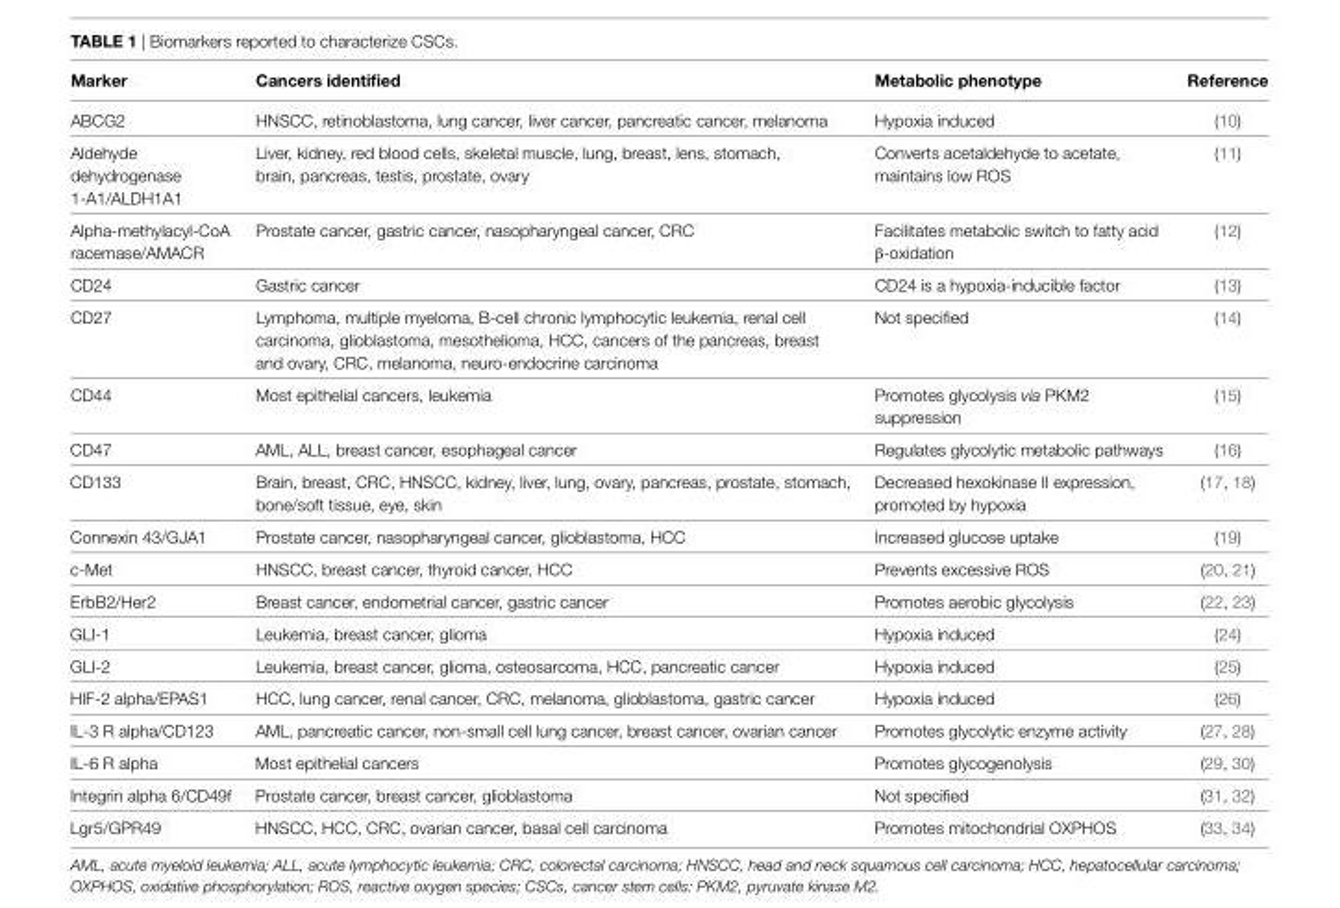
<table><thead><tr><td>Marker</td><td>Cancers identified</td><td>Metabolic phenotype</td><td>Reference</td></tr></thead><tbody><tr><td>ABCG2</td><td>HNSCC, retinoblastoma, lung cancer, liver cancer, pancreatic cancer, melanoma</td><td>Hypoxia induced</td><td>(10)</td></tr><tr><td>Aldehyde dehydrogenase 1-A1/ALDH1A1</td><td>Liver, kidney, red blood cells, skeletal muscle, lung, breast, lens, stomach, brain, pancreas, testis, prostate, ovary</td><td>Converts acetaldehyde to acetate, maintains low ROS</td><td>(11)</td></tr><tr><td>Alpha-methylacyl-CoA racemase/AMACR</td><td>Prostate cancer, gastric cancer, nasopharyngeal cancer, CRC</td><td>Facilitates metabolic switch to fatty acid β-oxidation</td><td>(12)</td></tr><tr><td>CD24</td><td>Gastric cancer</td><td>CD24 is a hypoxia-inducible factor</td><td>(13)</td></tr><tr><td>CD27</td><td>Lymphoma, multiple myeloma, B-cell chronic lymphocytic leukemia, renal cell carcinoma, glioblastoma, mesothelioma, HCC, cancers of the pancreas, breast and ovary, CRC, melanoma, neuro-endocrine carcinoma</td><td>Not specified</td><td>(14)</td></tr><tr><td>CD44</td><td>Most epithelial cancers, leukemia</td><td>Promotes glycolysis via PKM2 suppression</td><td>(15)</td></tr><tr><td>CD47</td><td>AML, ALL, breast cancer, esophageal cancer</td><td>Regulates glycolytic metabolic pathways</td><td>(16)</td></tr><tr><td>CD133</td><td>Brain, breast, CRC, HNSCC, kidney, liver, lung, ovary, pancreas, prostate, stomach, bone/soft tissue, eye, skin</td><td>Decreased hexokinase II expression, promoted by hypoxia</td><td>(17, 18)</td></tr><tr><td>Connexin 43/GJA1</td><td>Prostate cancer, nasopharyngeal cancer, glioblastoma, HCC</td><td>Increased glucose uptake</td><td>(19)</td></tr><tr><td>c-Met</td><td>HNSCC, breast cancer, thyroid cancer, HCC</td><td>Prevents excessive ROS</td><td>(20, 21)</td></tr><tr><td>ErbB2/Her2</td><td>Breast cancer, endometrial cancer, gastric cancer</td><td>Promotes aerobic glycolysis</td><td>(22, 23)</td></tr><tr><td>GLI-1</td><td>Leukemia, breast cancer, glioma</td><td>Hypoxia induced</td><td>(24)</td></tr><tr><td>GLI-2</td><td>Leukemia, breast cancer, glioma, osteosarcoma, HCC, pancreatic cancer</td><td>Hypoxia induced</td><td>(25)</td></tr><tr><td>HIF-2 alpha/EPAS1</td><td>HCC, lung cancer, renal cancer, CRC, melanoma, glioblastoma, gastric cancer</td><td>Hypoxia induced</td><td>(26)</td></tr><tr><td>IL-3 R alpha/CD123</td><td>AML, pancreatic cancer, non-small cell lung cancer, breast cancer, ovarian cancer</td><td>Promotes glycolytic enzyme activity</td><td>(27, 28)</td></tr><tr><td>IL-6 R alpha</td><td>Most epithelial cancers</td><td>Promotes glycogenolysis</td><td>(29, 30)</td></tr><tr><td>Integrin alpha 6/CD49f</td><td>Prostate cancer, breast cancer, glioblastoma</td><td>Not specified</td><td>(31, 32)</td></tr><tr><td>Lgr5/GPR49</td><td>HNSCC, HCC, CRC, ovarian cancer, basal cell carcinoma</td><td>Promotes mitochondrial OXPHOS</td><td>(33, 34)</td></tr></tbody></table>